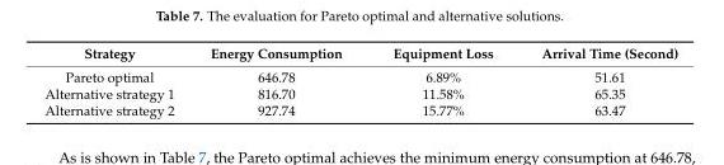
<table><thead><tr><td>Strategy</td><td>Energy Consumption</td><td>Equipment Loss</td><td>Arrival Time (Second)</td></tr></thead><tbody><tr><td>Pareto optimal</td><td>646.78</td><td>6.89%</td><td>51.61</td></tr><tr><td>Alternative strategy 1</td><td>816.70</td><td>11.58%</td><td>65.35</td></tr><tr><td>Alternative strategy 2</td><td>927.74</td><td>15.77%</td><td>63.47</td></tr></tbody></table>